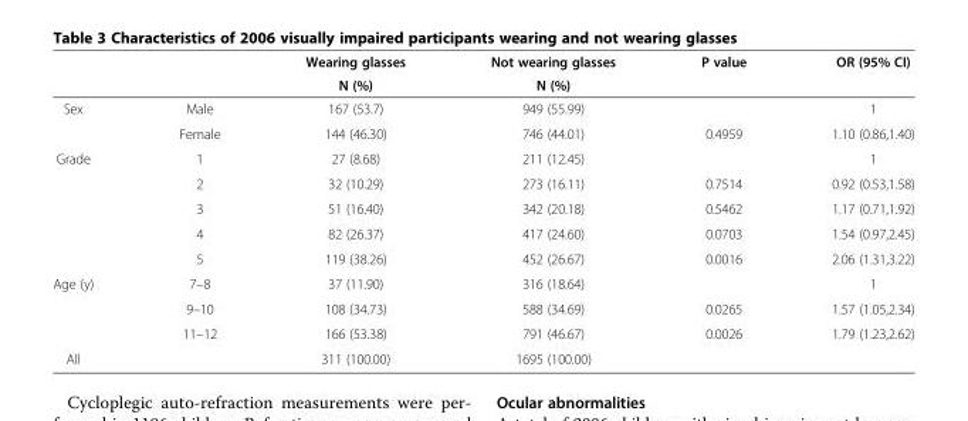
<table><thead><tr><td rowspan="2"></td><td rowspan="2"></td><td rowspan="2">Wearing glasses N (%)</td><td rowspan="2">Not wearing glasses N (%)</td><td rowspan="2">P value</td><td rowspan="2">OR (95% CI)</td></tr><tr></tr></thead><tbody><tr><td rowspan="2">Sex</td><td>Male</td><td>167 (53.7)</td><td>949 (55.99)</td><td></td><td>1</td></tr><tr><td>Female</td><td>144 (46.30)</td><td>746 (44.01)</td><td>0.4959</td><td>1.10 (0.86,1.40)</td></tr><tr><td rowspan="5">Grade</td><td>1</td><td>27 (8.68)</td><td>211 (12.45)</td><td></td><td>1</td></tr><tr><td>2</td><td>32 (10.29)</td><td>273 (16.11)</td><td>0.7514</td><td>0.92 (0.53,1.58)</td></tr><tr><td>3</td><td>51 (16.40)</td><td>342 (20.18)</td><td>0.5462</td><td>1.17 (0.71,1.92)</td></tr><tr><td>4</td><td>82 (26.37)</td><td>417 (24.60)</td><td>0.0703</td><td>1.54 (0.97,2.45)</td></tr><tr><td>5</td><td>119 (38.26)</td><td>452 (26.67)</td><td>0.0016</td><td>2.06 (1.31,3.22)</td></tr><tr><td rowspan="3">Age (y)</td><td>7–8</td><td>37 (11.90)</td><td>316 (18.64)</td><td></td><td>1</td></tr><tr><td>9–10</td><td>108 (34.73)</td><td>588 (34.69)</td><td>0.0265</td><td>1.57 (1.05,2.34)</td></tr><tr><td>11–12</td><td>166 (53.38)</td><td>791 (46.67)</td><td>0.0026</td><td>1.79 (1.23,2.62)</td></tr><tr><td>All</td><td></td><td>311 (100.00)</td><td>1695 (100.00)</td><td></td><td></td></tr></tbody></table>